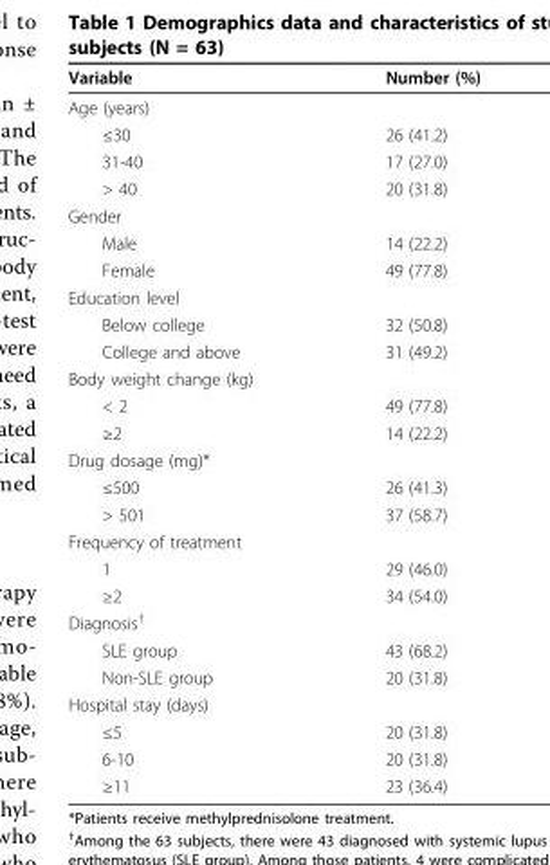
<table><thead><tr><td>Variable</td><td>Number (%)</td></tr></thead><tbody><tr><td colspan="2">Age (years)</td></tr><tr><td>≤30</td><td>26 (41.2)</td></tr><tr><td>31-40</td><td>17 (27.0)</td></tr><tr><td>&gt; 40</td><td>20 (31.8)</td></tr><tr><td colspan="2">Gender</td></tr><tr><td>Male</td><td>14 (22.2)</td></tr><tr><td>Female</td><td>49 (77.8)</td></tr><tr><td colspan="2">Education level</td></tr><tr><td>Below college</td><td>32 (50.8)</td></tr><tr><td>College and above</td><td>31 (49.2)</td></tr><tr><td colspan="2">Body weight change (kg)</td></tr><tr><td>&lt; 2</td><td>49 (77.8)</td></tr><tr><td>≥2</td><td>14 (22.2)</td></tr><tr><td colspan="2">Drug dosage (mg)*</td></tr><tr><td>≤500</td><td>26 (41.3)</td></tr><tr><td>&gt; 501</td><td>37 (58.7)</td></tr><tr><td colspan="2">Frequency of treatment</td></tr><tr><td>1</td><td>29 (46.0)</td></tr><tr><td>≥2</td><td>34 (54.0)</td></tr><tr><td colspan="2">Diagnosis<sup>†</sup></td></tr><tr><td>SLE group</td><td>43 (68.2)</td></tr><tr><td>Non-SLE group</td><td>20 (31.8)</td></tr><tr><td colspan="2">Hospital stay (days)</td></tr><tr><td>≤5</td><td>20 (31.8)</td></tr><tr><td>6-10</td><td>20 (31.8)</td></tr><tr><td>≥11</td><td>23 (36.4)</td></tr></tbody></table>